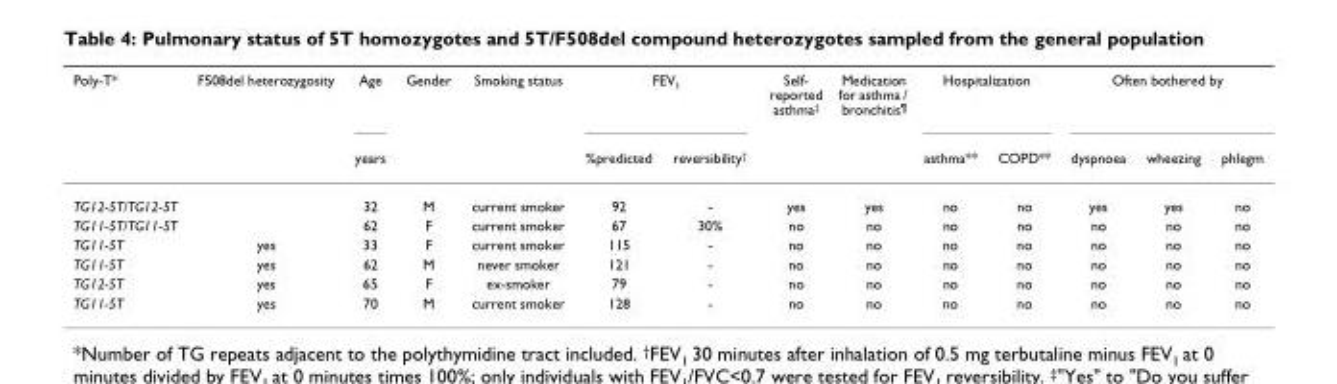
<table><thead><tr><td rowspan="2">Poly-T*</td><td rowspan="2">F508del heterozygosity</td><td rowspan="2">Age years</td><td rowspan="2">Gender</td><td rowspan="2">Smoking status</td><td colspan="2">FEV<sub>1</sub></td><td rowspan="2">Self- reported asthma<sup>‡</sup></td><td rowspan="2">Medication for asthma / bronchitis<sup>¶</sup></td><td colspan="2">Hospitalization</td><td colspan="3">Often bothered by</td></tr><tr><td>%predicted</td><td>reversibility<sup>†</sup></td><td>asthma**</td><td>COPD**</td><td>dyspnoea</td><td>wheezing</td><td>phlegm</td></tr></thead><tbody><tr><td>TG12-5T/TG12-5T</td><td></td><td>32</td><td>M</td><td>current smoker</td><td>92</td><td>-</td><td>yes</td><td>yes</td><td>no</td><td>no</td><td>yes</td><td>yes</td><td>no</td></tr><tr><td>TG11-5T/TG11-5T</td><td></td><td>62</td><td>F</td><td>current smoker</td><td>67</td><td>30%</td><td>no</td><td>no</td><td>no</td><td>no</td><td>no</td><td>no</td><td>no</td></tr><tr><td>TG11-5T</td><td>yes</td><td>33</td><td>F</td><td>current smoker</td><td>115</td><td>-</td><td>no</td><td>no</td><td>no</td><td>no</td><td>no</td><td>no</td><td>no</td></tr><tr><td>TG11-5T</td><td>yes</td><td>62</td><td>M</td><td>never smoker</td><td>121</td><td>-</td><td>no</td><td>no</td><td>no</td><td>no</td><td>no</td><td>no</td><td>no</td></tr><tr><td>TG12-5T</td><td>yes</td><td>65</td><td>F</td><td>ex-smoker</td><td>79</td><td>-</td><td>no</td><td>no</td><td>no</td><td>no</td><td>no</td><td>no</td><td>no</td></tr><tr><td>TG11-5T</td><td>yes</td><td>70</td><td>M</td><td>current smoker</td><td>128</td><td>-</td><td>no</td><td>no</td><td>no</td><td>no</td><td>no</td><td>no</td><td>no</td></tr></tbody></table>